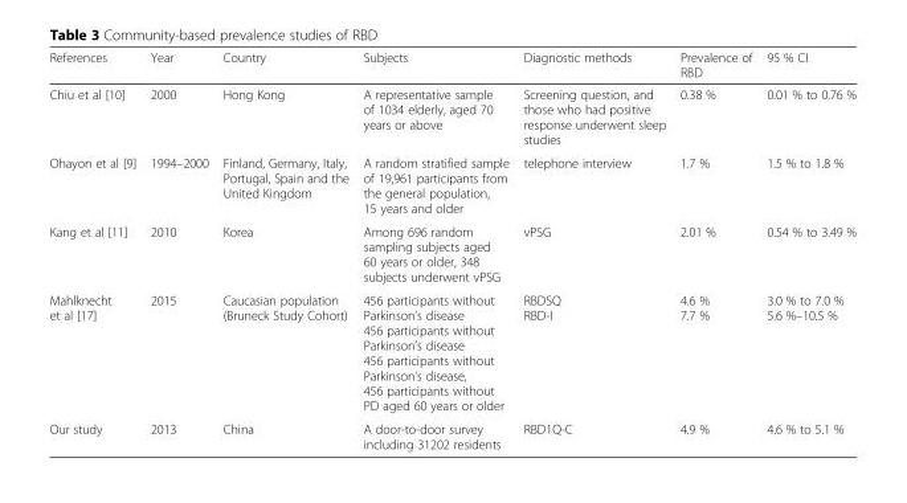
<table><thead><tr><td>References</td><td>Year</td><td>Country</td><td>Subjects</td><td>Diagnostic methods</td><td>Prevalence of RBD</td><td>95 % CI</td></tr></thead><tbody><tr><td>Chiu et al [10]</td><td>2000</td><td>Hong Kong</td><td>A representative sample of 1034 elderly, aged 70 years or above</td><td>Screening question, and those who had positive response underwent sleep studies</td><td>0.38 %</td><td>0.01 % to 0.76 %</td></tr><tr><td>Ohayon et al [9]</td><td>1994–2000</td><td>Finland, Germany, Italy, Portugal, Spain and the United Kingdom</td><td>A random stratified sample of 19,961 participants from the general population, 15 years and older</td><td>telephone interview</td><td>1.7 %</td><td>1.5 % to 1.8 %</td></tr><tr><td>Kang et al [11]</td><td>2010</td><td>Korea</td><td>Among 696 random sampling subjects aged 60 years or older, 348 subjects underwent vPSG</td><td>vPSG</td><td>2.01 %</td><td>0.54 % to 3.49 %</td></tr><tr><td>Mahlknecht et al [17]</td><td>2015</td><td>Caucasian population (Bruneck Study Cohort)</td><td>456 participants without Parkinson’s disease 456 participants without Parkinson’s disease 456 participants without Parkinson’s disease, 456 participants without PD aged 60 years or older</td><td>RBDSQ RBD-I</td><td>4.6 % 7.7 %</td><td>3.0 % to 7.0 % 5.6 %–10.5 %</td></tr><tr><td>Our study</td><td>2013</td><td>China</td><td>A door-to-door survey including 31202 residents</td><td>RBD1Q-C</td><td>4.9 %</td><td>4.6 % to 5.1 %</td></tr></tbody></table>